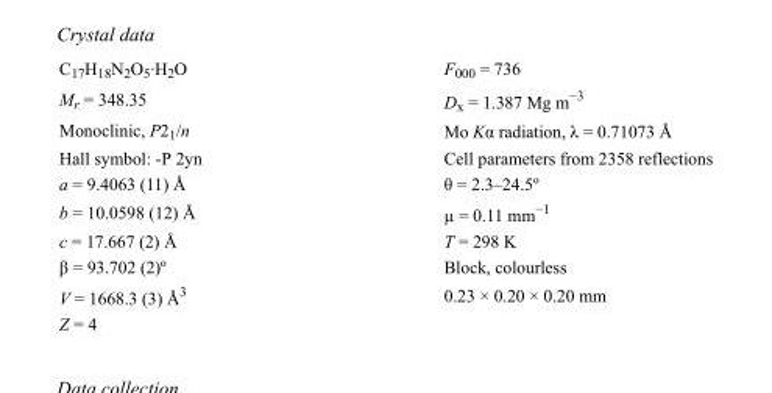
<table><tbody><tr><td>C<sub>17</sub>H<sub>18</sub>N<sub>2</sub>O<sub>5</sub>·H<sub>2</sub>O</td><td>F000 = 736</td></tr><tr><td>M<sub>r</sub> = 348.35</td><td>D<sub>x</sub> = 1.387 Mg m<sup>−3</sup></td></tr><tr><td>Monoclinic, P2<sub>1</sub>/n</td><td>Mo Kα radiation, λ = 0.71073 Å</td></tr><tr><td>Hall symbol: -P 2yn</td><td>Cell parameters from 2358 reflections</td></tr><tr><td>a = 9.4063 (11) Å</td><td>θ = 2.3–24.5º</td></tr><tr><td>b = 10.0598 (12) Å</td><td>µ = 0.11 mm<sup>−1</sup></td></tr><tr><td>c = 17.667 (2) Å</td><td>T = 298 K</td></tr><tr><td>β = 93.702 (2)º</td><td>Block, colourless</td></tr><tr><td>V = 1668.3 (3) Å<sup>3</sup></td><td>0.23 × 0.20 × 0.20 mm</td></tr><tr><td>Z = 4</td><td></td></tr></tbody></table>